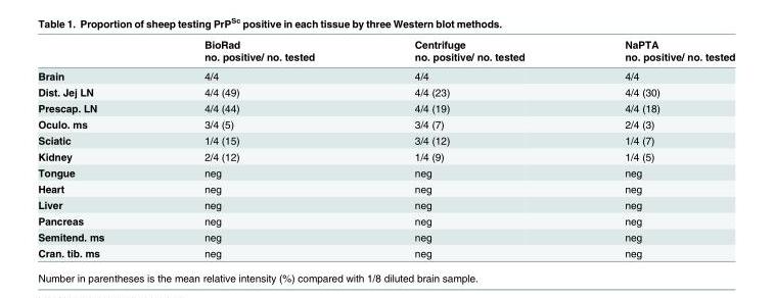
<table><thead><tr><td rowspan="2"></td><td rowspan="2">BioRad no. positive/ no. tested</td><td rowspan="2">Centrifuge no. positive/ no. tested</td><td rowspan="2">NaPTA no. positive/ no. tested</td></tr><tr></tr></thead><tbody><tr><td>Brain</td><td>4/4</td><td>4/4</td><td>4/4</td></tr><tr><td>Dist. Jej LN</td><td>4/4 (49)</td><td>4/4 (23)</td><td>4/4 (30)</td></tr><tr><td>Prescap. LN</td><td>4/4 (44)</td><td>4/4 (19)</td><td>4/4 (18)</td></tr><tr><td>Oculo. ms</td><td>3/4 (5)</td><td>3/4 (7)</td><td>2/4 (3)</td></tr><tr><td>Sciatic</td><td>1/4 (15)</td><td>3/4 (12)</td><td>1/4 (7)</td></tr><tr><td>Kidney</td><td>2/4 (12)</td><td>1/4 (9)</td><td>1/4 (5)</td></tr><tr><td>Tongue</td><td>neg</td><td>neg</td><td>neg</td></tr><tr><td>Heart</td><td>neg</td><td>neg</td><td>neg</td></tr><tr><td>Liver</td><td>neg</td><td>neg</td><td>neg</td></tr><tr><td>Pancreas</td><td>neg</td><td>neg</td><td>neg</td></tr><tr><td>Semitend. ms</td><td>neg</td><td>neg</td><td>neg</td></tr><tr><td>Cran. tib. ms</td><td>neg</td><td>neg</td><td>neg</td></tr></tbody></table>